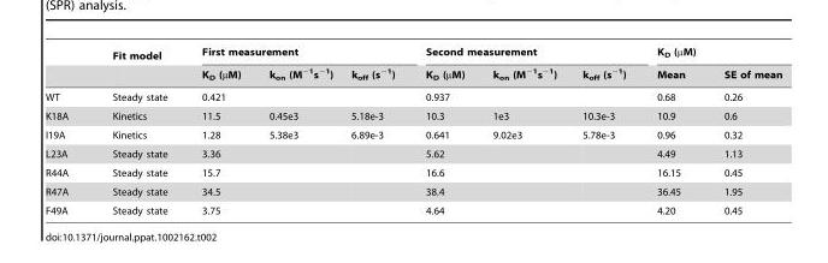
<table><thead><tr><td rowspan="2"></td><td rowspan="2">Fit model</td><td colspan="3">First measurement</td><td colspan="3">Second measurement</td><td colspan="2">K<sub>D</sub> (µM)</td></tr><tr><td>K<sub>D</sub> (µM)</td><td>k<sub>on</sub> (M<sup>−1</sup>s<sup>−1</sup>)</td><td>k<sub>off</sub> (s<sup>−1</sup>)</td><td>K<sub>D</sub> (µM)</td><td>k<sub>on</sub> (M<sup>−1</sup>s<sup>−1</sup>)</td><td>k<sub>off</sub> (s<sup>−1</sup>)</td><td>Mean</td><td>SE of mean</td></tr></thead><tbody><tr><td>WT</td><td>Steady state</td><td>0.421</td><td></td><td></td><td>0.937</td><td></td><td></td><td>0.68</td><td>0.26</td></tr><tr><td>K18A</td><td>Kinetics</td><td>11.5</td><td>0.45e3</td><td>5.18e-3</td><td>10.3</td><td>1e3</td><td>10.3e-3</td><td>10.9</td><td>0.6</td></tr><tr><td>I19A</td><td>Kinetics</td><td>1.28</td><td>5.38e3</td><td>6.89e-3</td><td>0.641</td><td>9.02e3</td><td>5.78e-3</td><td>0.96</td><td>0.32</td></tr><tr><td>L23A</td><td>Steady state</td><td>3.36</td><td></td><td></td><td>5.62</td><td></td><td></td><td>4.49</td><td>1.13</td></tr><tr><td>R44A</td><td>Steady state</td><td>15.7</td><td></td><td></td><td>16.6</td><td></td><td></td><td>16.15</td><td>0.45</td></tr><tr><td>R47A</td><td>Steady state</td><td>34.5</td><td></td><td></td><td>38.4</td><td></td><td></td><td>36.45</td><td>1.95</td></tr><tr><td>F49A</td><td>Steady state</td><td>3.75</td><td></td><td></td><td>4.64</td><td></td><td></td><td>4.20</td><td>0.45</td></tr></tbody></table>